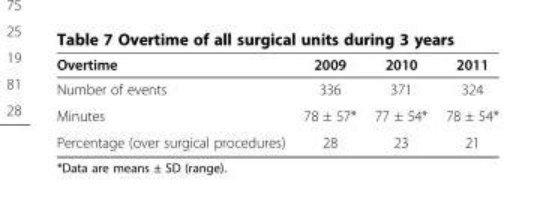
<table><thead><tr><td>Overtime</td><td>2009</td><td>2010</td><td>2011</td></tr></thead><tbody><tr><td>Number of events</td><td>336</td><td>371</td><td>324</td></tr><tr><td>Minutes</td><td>78 ± 57*</td><td>77 ± 54*</td><td>78 ± 54*</td></tr><tr><td>Percentage (over surgical procedures)</td><td>28</td><td>23</td><td>21</td></tr></tbody></table>